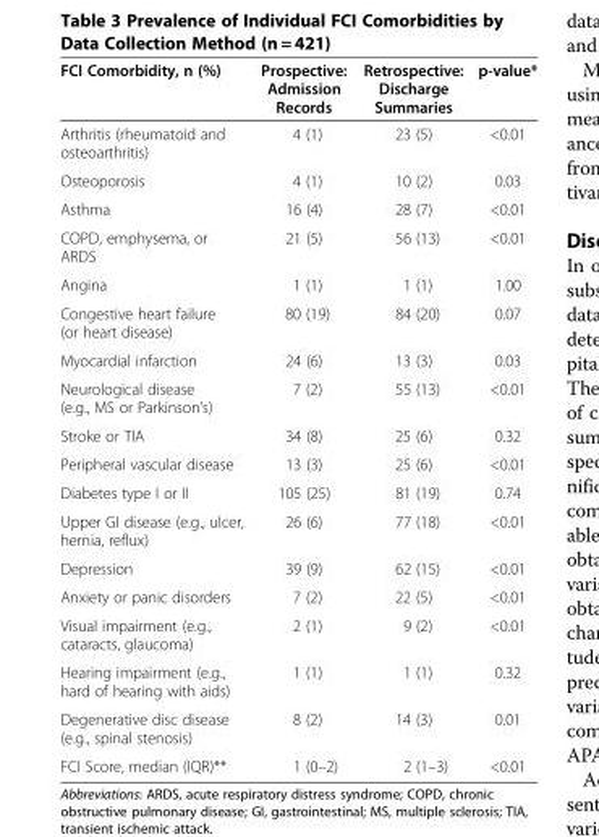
<table><thead><tr><td>FCI Comorbidity, n (%)</td><td>Prospective: Admission Records</td><td>Retrospective: Discharge Summaries</td><td>p-value*</td></tr></thead><tbody><tr><td>Arthritis (rheumatoid and osteoarthritis)</td><td>4 (1)</td><td>23 (5)</td><td>&lt;0.01</td></tr><tr><td>Osteoporosis</td><td>4 (1)</td><td>10 (2)</td><td>0.03</td></tr><tr><td>Asthma</td><td>16 (4)</td><td>28 (7)</td><td>&lt;0.01</td></tr><tr><td>COPD, emphysema, or ARDS</td><td>21 (5)</td><td>56 (13)</td><td>&lt;0.01</td></tr><tr><td>Angina</td><td>1 (1)</td><td>1 (1)</td><td>1.00</td></tr><tr><td>Congestive heart failure (or heart disease)</td><td>80 (19)</td><td>84 (20)</td><td>0.07</td></tr><tr><td>Myocardial infarction</td><td>24 (6)</td><td>13 (3)</td><td>0.03</td></tr><tr><td>Neurological disease (e.g., MS or Parkinson’s)</td><td>7 (2)</td><td>55 (13)</td><td>&lt;0.01</td></tr><tr><td>Stroke or TIA</td><td>34 (8)</td><td>25 (6)</td><td>0.32</td></tr><tr><td>Peripheral vascular disease</td><td>13 (3)</td><td>25 (6)</td><td>&lt;0.01</td></tr><tr><td>Diabetes type I or II</td><td>105 (25)</td><td>81 (19)</td><td>0.74</td></tr><tr><td>Upper GI disease (e.g., ulcer, hernia, reflux)</td><td>26 (6)</td><td>77 (18)</td><td>&lt;0.01</td></tr><tr><td>Depression</td><td>39 (9)</td><td>62 (15)</td><td>&lt;0.01</td></tr><tr><td>Anxiety or panic disorders</td><td>7 (2)</td><td>22 (5)</td><td>&lt;0.01</td></tr><tr><td>Visual impairment (e.g., cataracts, glaucoma)</td><td>2 (1)</td><td>9 (2)</td><td>&lt;0.01</td></tr><tr><td>Hearing impairment (e.g., hard of hearing with aids)</td><td>1 (1)</td><td>1 (1)</td><td>0.32</td></tr><tr><td>Degenerative disc disease (e.g., spinal stenosis)</td><td>8 (2)</td><td>14 (3)</td><td>0.01</td></tr><tr><td>FCI Score, median (IQR)**</td><td>1 (0–2)</td><td>2 (1–3)</td><td>&lt;0.01</td></tr></tbody></table>